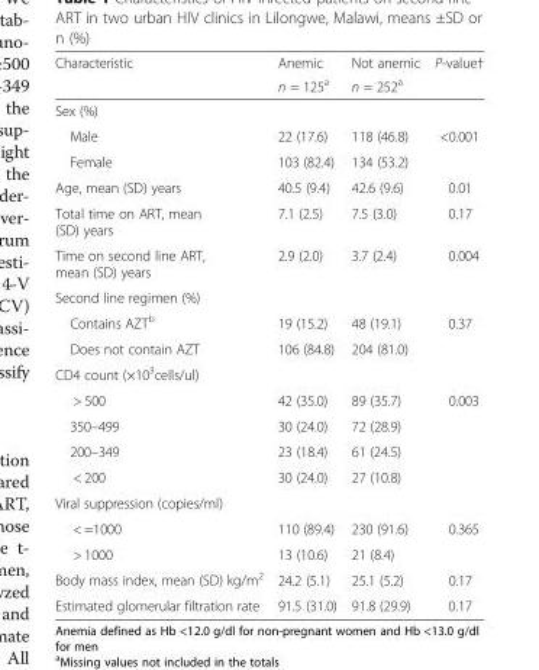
<table><thead><tr><td rowspan="2">Characteristic</td><td rowspan="2">Anemic n = 125<sup>a</sup></td><td rowspan="2">Not anemic n = 252<sup>a</sup></td><td rowspan="2">P-value†</td></tr><tr></tr></thead><tbody><tr><td colspan="4">Sex (%)</td></tr><tr><td>Male</td><td>22 (17.6)</td><td>118 (46.8)</td><td>&lt;0.001</td></tr><tr><td>Female</td><td>103 (82.4)</td><td>134 (53.2)</td><td></td></tr><tr><td>Age, mean (SD) years</td><td>40.5 (9.4)</td><td>42.6 (9.6)</td><td>0.01</td></tr><tr><td>Total time on ART, mean (SD) years</td><td>7.1 (2.5)</td><td>7.5 (3.0)</td><td>0.17</td></tr><tr><td>Time on second line ART, mean (SD) years</td><td>2.9 (2.0)</td><td>3.7 (2.4)</td><td>0.004</td></tr><tr><td colspan="4">Second line regimen (%)</td></tr><tr><td>Contains AZT<sup>b</sup></td><td>19 (15.2)</td><td>48 (19.1)</td><td>0.37</td></tr><tr><td>Does not contain AZT</td><td>106 (84.8)</td><td>204 (81.0)</td><td></td></tr><tr><td colspan="4">CD4 count (×10<sup>3</sup>cells/ul)</td></tr><tr><td>&gt; 500</td><td>42 (35.0)</td><td>89 (35.7)</td><td>0.003</td></tr><tr><td>350–499</td><td>30 (24.0)</td><td>72 (28.9)</td><td></td></tr><tr><td>200–349</td><td>23 (18.4)</td><td>61 (24.5)</td><td></td></tr><tr><td>&lt; 200</td><td>30 (24.0)</td><td>27 (10.8)</td><td></td></tr><tr><td colspan="4">Viral suppression (copies/ml)</td></tr><tr><td>&lt; =1000</td><td>110 (89.4)</td><td>230 (91.6)</td><td>0.365</td></tr><tr><td>&gt; 1000</td><td>13 (10.6)</td><td>21 (8.4)</td><td></td></tr><tr><td>Body mass index, mean (SD) kg/m<sup>2</sup></td><td>24.2 (5.1)</td><td>25.1 (5.2)</td><td>0.17</td></tr><tr><td>Estimated glomerular filtration rate</td><td>91.5 (31.0)</td><td>91.8 (29.9)</td><td>0.17</td></tr></tbody></table>